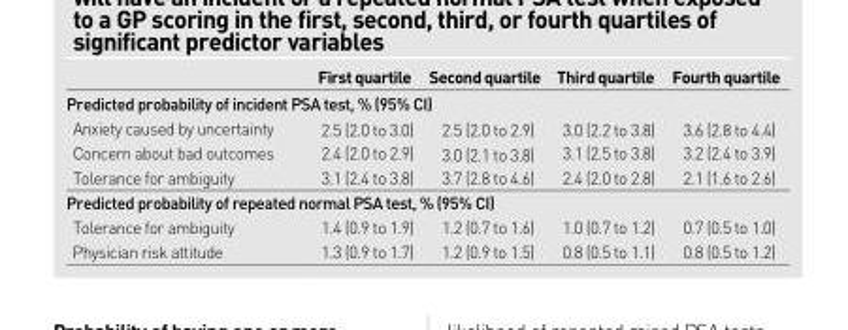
<table><thead><tr><td></td><td>First quartile</td><td>Second quartile</td><td>Third quartile</td><td>Fourth quartile</td></tr></thead><tbody><tr><td colspan="5">Predicted probability of incident PSA test, % (95% CI)</td></tr><tr><td>Anxiety caused by uncertainty</td><td>2.5 (2.0 to 3.0)</td><td>2.5 (2.0 to 2.9)</td><td>3.0 (2.2 to 3.8)</td><td>3.6 (2.8 to 4.4)</td></tr><tr><td>Concern about bad outcomes</td><td>2.4 (2.0 to 2.9)</td><td>3.0 (2.1 to 3.8)</td><td>3.1 (2.5 to 3.8)</td><td>3.2 (2.4 to 3.9)</td></tr><tr><td>Tolerance for ambiguity</td><td>3.1 (2.4 to 3.8)</td><td>3.7 (2.8 to 4.6)</td><td>2.4 (2.0 to 2.8)</td><td>2.1 (1.6 to 2.6)</td></tr><tr><td colspan="5">Predicted probability of repeated normal PSA test, % (95% CI)</td></tr><tr><td>Tolerance for ambiguity</td><td>1.4 (0.9 to 1.9)</td><td>1.2 (0.7 to 1.6)</td><td>1.0 (0.7 to 1.2)</td><td>0.7 (0.5 to 1.0)</td></tr><tr><td>Physician risk attitude</td><td>1.3 (0.9 to 1.7)</td><td>1.2 (0.9 to 1.5)</td><td>0.8 (0.5 to 1.1)</td><td>0.8 (0.5 to 1.2)</td></tr></tbody></table>